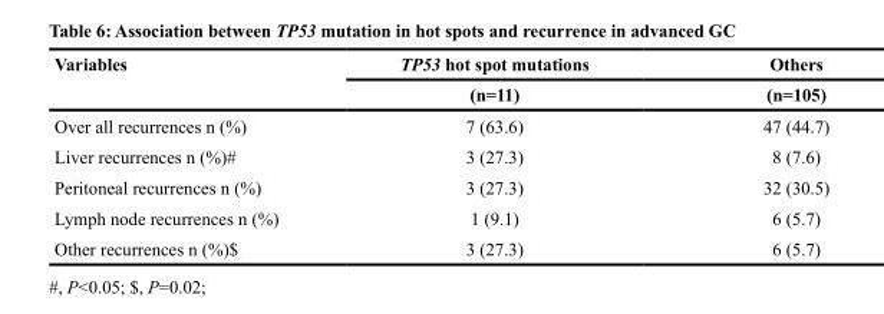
<table><thead><tr><td rowspan="2">Variables</td><td rowspan="2">TP53 hot spot mutations (n=11)</td><td rowspan="2">Others (n=105)</td></tr><tr></tr></thead><tbody><tr><td>Over all recurrences n (%)</td><td>7 (63.6)</td><td>47 (44.7)</td></tr><tr><td>Liver recurrences n (%)#</td><td>3 (27.3)</td><td>8 (7.6)</td></tr><tr><td>Peritoneal recurrences n (%)</td><td>3 (27.3)</td><td>32 (30.5)</td></tr><tr><td>Lymph node recurrences n (%)</td><td>1 (9.1)</td><td>6 (5.7)</td></tr><tr><td>Other recurrences n (%)$</td><td>3 (27.3)</td><td>6 (5.7)</td></tr></tbody></table>